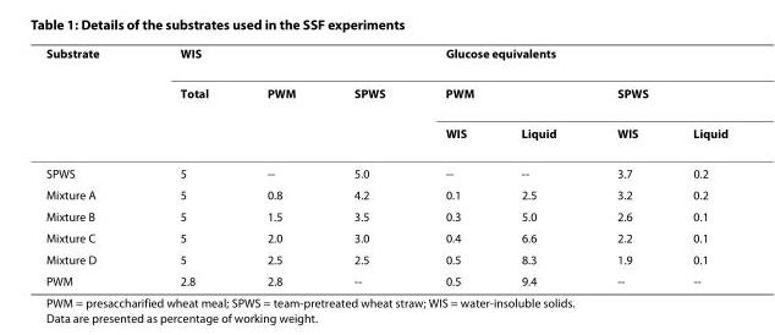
<table><thead><tr><td rowspan="3">Substrate</td><td colspan="3">WIS</td><td colspan="4">Glucose equivalents</td></tr><tr><td rowspan="2">Total</td><td rowspan="2">PWM</td><td rowspan="2">SPWS</td><td colspan="2">PWM</td><td colspan="2">SPWS</td></tr><tr><td>WIS</td><td>Liquid</td><td>WIS</td><td>Liquid</td></tr></thead><tbody><tr><td>SPWS</td><td>5</td><td>--</td><td>5.0</td><td>--</td><td>--</td><td>3.7</td><td>0.2</td></tr><tr><td>Mixture A</td><td>5</td><td>0.8</td><td>4.2</td><td>0.1</td><td>2.5</td><td>3.2</td><td>0.2</td></tr><tr><td>Mixture B</td><td>5</td><td>1.5</td><td>3.5</td><td>0.3</td><td>5.0</td><td>2.6</td><td>0.1</td></tr><tr><td>Mixture C</td><td>5</td><td>2.0</td><td>3.0</td><td>0.4</td><td>6.6</td><td>2.2</td><td>0.1</td></tr><tr><td>Mixture D</td><td>5</td><td>2.5</td><td>2.5</td><td>0.5</td><td>8.3</td><td>1.9</td><td>0.1</td></tr><tr><td>PWM</td><td>2.8</td><td>2.8</td><td>--</td><td>0.5</td><td>9.4</td><td>--</td><td>--</td></tr></tbody></table>